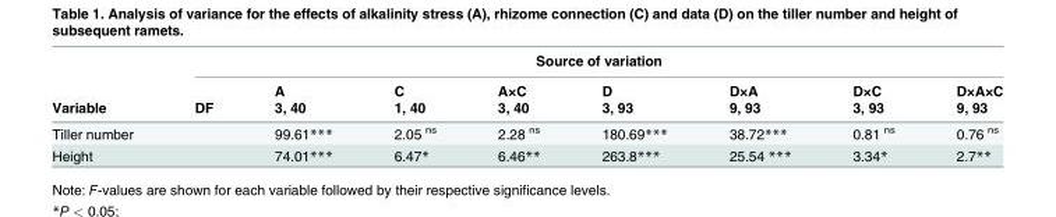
<table><thead><tr><td rowspan="3">Variable</td><td colspan="8">Source of variation</td></tr><tr><td rowspan="2">DF</td><td rowspan="2">A 3, 40</td><td rowspan="2">C 1, 40</td><td rowspan="2">A×C 3, 40</td><td rowspan="2">D 3, 93</td><td rowspan="2">D×A 9, 93</td><td rowspan="2">D×C 3, 93</td><td rowspan="2">D×A×C 9, 93</td></tr><tr></tr></thead><tbody><tr><td>Tiller number</td><td></td><td>99.61***</td><td>2.05 <sup>ns</sup></td><td>2.28 <sup>ns</sup></td><td>180.69***</td><td>38.72***</td><td>0.81 <sup>ns</sup></td><td>0.76 <sup>ns</sup></td></tr><tr><td>Height</td><td></td><td>74.01***</td><td>6.47*</td><td>6.46**</td><td>263.8***</td><td>25.54 ***</td><td>3.34*</td><td>2.7**</td></tr></tbody></table>